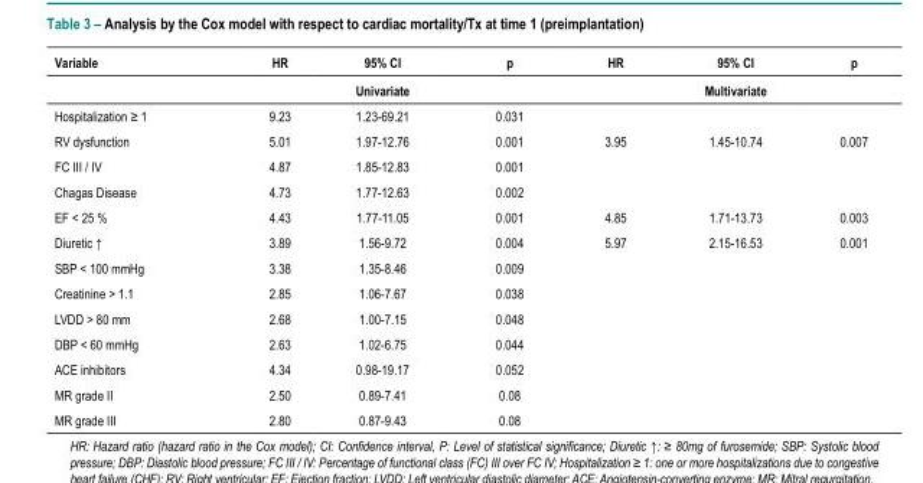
<table><thead><tr><td rowspan="2">Variable</td><td>HR</td><td>95% CI</td><td>p</td><td>HR</td><td>95% CI</td><td>p</td></tr><tr><td colspan="3">Univariate</td><td colspan="3">Multivariate</td></tr></thead><tbody><tr><td>Hospitalization ≥ 1</td><td>9.23</td><td>1.23-69.21</td><td>0.031</td><td></td><td></td><td></td></tr><tr><td>RV dysfunction</td><td>5.01</td><td>1.97-12.76</td><td>0.001</td><td>3.95</td><td>1.45-10.74</td><td>0.007</td></tr><tr><td>FC III / IV</td><td>4.87</td><td>1.85-12.83</td><td>0.001</td><td></td><td></td><td></td></tr><tr><td>Chagas Disease</td><td>4.73</td><td>1.77-12.63</td><td>0.002</td><td></td><td></td><td></td></tr><tr><td>EF &lt; 25 %</td><td>4.43</td><td>1.77-11.05</td><td>0.001</td><td>4.85</td><td>1.71-13.73</td><td>0.003</td></tr><tr><td>Diuretic ↑</td><td>3.89</td><td>1.56-9.72</td><td>0.004</td><td>5.97</td><td>2.15-16.53</td><td>0.001</td></tr><tr><td>SBP &lt; 100 mmHg</td><td>3.38</td><td>1.35-8.46</td><td>0.009</td><td></td><td></td><td></td></tr><tr><td>Creatinine &gt; 1.1</td><td>2.85</td><td>1.06-7.67</td><td>0.038</td><td></td><td></td><td></td></tr><tr><td>LVDD &gt; 80 mm</td><td>2.68</td><td>1.00-7.15</td><td>0.048</td><td></td><td></td><td></td></tr><tr><td>DBP &lt; 60 mmHg</td><td>2.63</td><td>1.02-6.75</td><td>0.044</td><td></td><td></td><td></td></tr><tr><td>ACE inhibitors</td><td>4.34</td><td>0.98-19.17</td><td>0.052</td><td></td><td></td><td></td></tr><tr><td>MR grade II</td><td>2.50</td><td>0.89-7.41</td><td>0.08</td><td></td><td></td><td></td></tr><tr><td>MR grade III</td><td>2.80</td><td>0.87-9.43</td><td>0.08</td><td></td><td></td><td></td></tr></tbody></table>